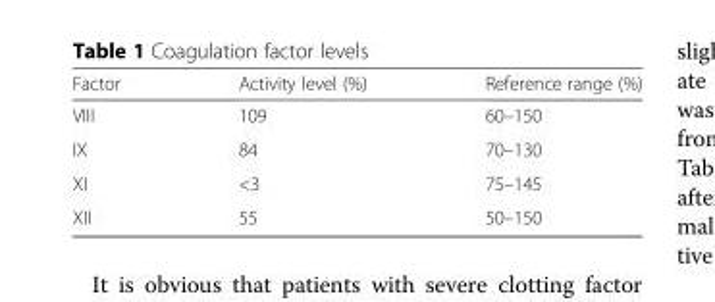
<table><thead><tr><td>Factor</td><td>Activity level (%)</td><td>Reference range (%)</td></tr></thead><tbody><tr><td>VIII</td><td>109</td><td>60–150</td></tr><tr><td>IX</td><td>84</td><td>70–130</td></tr><tr><td>XI</td><td>&lt;3</td><td>75–145</td></tr><tr><td>XII</td><td>55</td><td>50–150</td></tr></tbody></table>